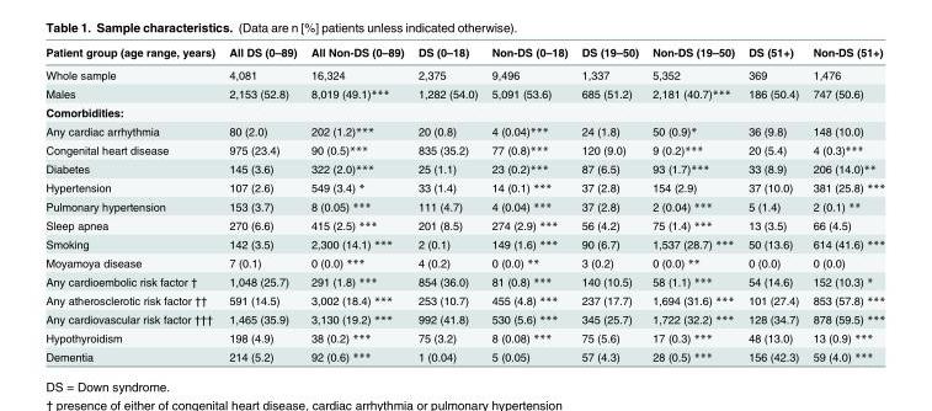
<table><thead><tr><td>Patient group (age range, years)</td><td>All DS (0–89)</td><td>All Non-DS (0–89)</td><td>DS (0–18)</td><td>Non-DS (0–18)</td><td>DS (19–50)</td><td>Non-DS (19–50)</td><td>DS (51+)</td><td>Non-DS (51+)</td></tr></thead><tbody><tr><td>Whole sample</td><td>4,081</td><td>16,324</td><td>2,375</td><td>9,496</td><td>1,337</td><td>5,352</td><td>369</td><td>1,476</td></tr><tr><td>Males</td><td>2,153 (52.8)</td><td>8,019 (49.1)***</td><td>1,282 (54.0)</td><td>5,091 (53.6)</td><td>685 (51.2)</td><td>2,181 (40.7)***</td><td>186 (50.4)</td><td>747 (50.6)</td></tr><tr><td colspan="9">Comorbidities:</td></tr><tr><td>Any cardiac arrhythmia</td><td>80 (2.0)</td><td>202 (1.2)***</td><td>20 (0.8)</td><td>4 (0.04)***</td><td>24 (1.8)</td><td>50 (0.9)*</td><td>36 (9.8)</td><td>148 (10.0)</td></tr><tr><td>Congenital heart disease</td><td>975 (23.4)</td><td>90 (0.5)***</td><td>835 (35.2)</td><td>77 (0.8)***</td><td>120 (9.0)</td><td>9 (0.2)***</td><td>20 (5.4)</td><td>4 (0.3)***</td></tr><tr><td>Diabetes</td><td>145 (3.6)</td><td>322 (2.0)***</td><td>25 (1.1)</td><td>23 (0.2)***</td><td>87 (6.5)</td><td>93 (1.7)***</td><td>33 (8.9)</td><td>206 (14.0)**</td></tr><tr><td>Hypertension</td><td>107 (2.6)</td><td>549 (3.4) *</td><td>33 (1.4)</td><td>14 (0.1) ***</td><td>37 (2.8)</td><td>154 (2.9)</td><td>37 (10.0)</td><td>381 (25.8) ***</td></tr><tr><td>Pulmonary hypertension</td><td>153 (3.7)</td><td>8 (0.05) ***</td><td>111 (4.7)</td><td>4 (0.04) ***</td><td>37 (2.8)</td><td>2 (0.04) ***</td><td>5 (1.4)</td><td>2 (0.1) **</td></tr><tr><td>Sleep apnea</td><td>270 (6.6)</td><td>415 (2.5) ***</td><td>201 (8.5)</td><td>274 (2.9) ***</td><td>56 (4.2)</td><td>75 (1.4) ***</td><td>13 (3.5)</td><td>66 (4.5)</td></tr><tr><td>Smoking</td><td>142 (3.5)</td><td>2,300 (14.1) ***</td><td>2 (0.1)</td><td>149 (1.6) ***</td><td>90 (6.7)</td><td>1,537 (28.7) ***</td><td>50 (13.6)</td><td>614 (41.6) ***</td></tr><tr><td>Moyamoya disease</td><td>7 (0.1)</td><td>0 (0.0) ***</td><td>4 (0.2)</td><td>0 (0.0) **</td><td>3 (0.2)</td><td>0 (0.0) **</td><td>0 (0.0)</td><td>0 (0.0)</td></tr><tr><td>Any cardioembolic risk factor †</td><td>1,048 (25.7)</td><td>291 (1.8) ***</td><td>854 (36.0)</td><td>81 (0.8) ***</td><td>140 (10.5)</td><td>58 (1.1) ***</td><td>54 (14.6)</td><td>152 (10.3) *</td></tr><tr><td>Any atherosclerotic risk factor ††</td><td>591 (14.5)</td><td>3,002 (18.4) ***</td><td>253 (10.7)</td><td>455 (4.8) ***</td><td>237 (17.7)</td><td>1,694 (31.6) ***</td><td>101 (27.4)</td><td>853 (57.8) ***</td></tr><tr><td>Any cardiovascular risk factor †††</td><td>1,465 (35.9)</td><td>3,130 (19.2) ***</td><td>992 (41.8)</td><td>530 (5.6) ***</td><td>345 (25.7)</td><td>1,722 (32.2) ***</td><td>128 (34.7)</td><td>878 (59.5) ***</td></tr><tr><td>Hypothyroidism</td><td>198 (4.9)</td><td>38 (0.2) ***</td><td>75 (3.2)</td><td>8 (0.08) ***</td><td>75 (5.6)</td><td>17 (0.3) ***</td><td>48 (13.0)</td><td>13 (0.9) ***</td></tr><tr><td>Dementia</td><td>214 (5.2)</td><td>92 (0.6) ***</td><td>1 (0.04)</td><td>5 (0.05)</td><td>57 (4.3)</td><td>28 (0.5) ***</td><td>156 (42.3)</td><td>59 (4.0) ***</td></tr></tbody></table>